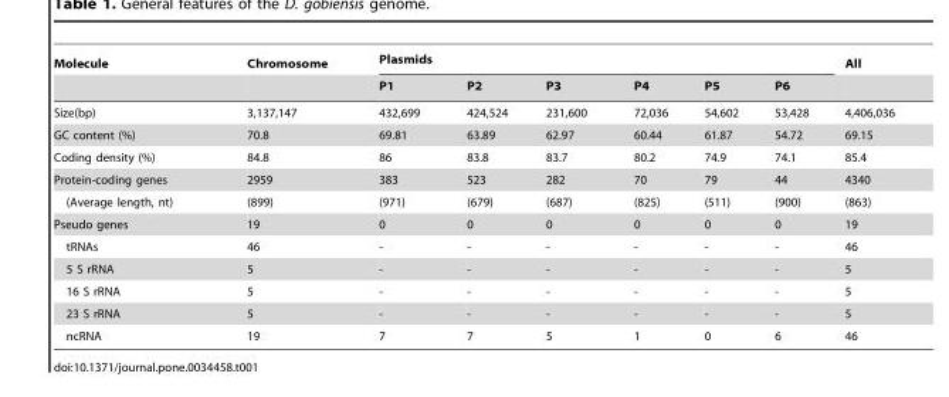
<table><thead><tr><td rowspan="2">Molecule</td><td rowspan="2">Chromosome</td><td colspan="6">Plasmids</td><td rowspan="2">All</td></tr><tr><td>P1</td><td>P2</td><td>P3</td><td>P4</td><td>P5</td><td>P6</td></tr></thead><tbody><tr><td>Size(bp)</td><td>3,137,147</td><td>432,699</td><td>424,524</td><td>231,600</td><td>72,036</td><td>54,602</td><td>53,428</td><td>4,406,036</td></tr><tr><td>GC content (%)</td><td>70.8</td><td>69.81</td><td>63.89</td><td>62.97</td><td>60.44</td><td>61.87</td><td>54.72</td><td>69.15</td></tr><tr><td>Coding density (%)</td><td>84.8</td><td>86</td><td>83.8</td><td>83.7</td><td>80.2</td><td>74.9</td><td>74.1</td><td>85.4</td></tr><tr><td>Protein-coding genes</td><td>2959</td><td>383</td><td>523</td><td>282</td><td>70</td><td>79</td><td>44</td><td>4340</td></tr><tr><td>(Average length, nt)</td><td>(899)</td><td>(971)</td><td>(679)</td><td>(687)</td><td>(825)</td><td>(511)</td><td>(900)</td><td>(863)</td></tr><tr><td>Pseudo genes</td><td>19</td><td>0</td><td>0</td><td>0</td><td>0</td><td>0</td><td>0</td><td>19</td></tr><tr><td>tRNAs</td><td>46</td><td>-</td><td>-</td><td>-</td><td>-</td><td>-</td><td>-</td><td>46</td></tr><tr><td>5 S rRNA</td><td>5</td><td>-</td><td>-</td><td>-</td><td>-</td><td>-</td><td>-</td><td>5</td></tr><tr><td>16 S rRNA</td><td>5</td><td>-</td><td>-</td><td>-</td><td>-</td><td>-</td><td>-</td><td>5</td></tr><tr><td>23 S rRNA</td><td>5</td><td>-</td><td>-</td><td>-</td><td>-</td><td>-</td><td>-</td><td>5</td></tr><tr><td>ncRNA</td><td>19</td><td>7</td><td>7</td><td>5</td><td>1</td><td>0</td><td>6</td><td>46</td></tr></tbody></table>